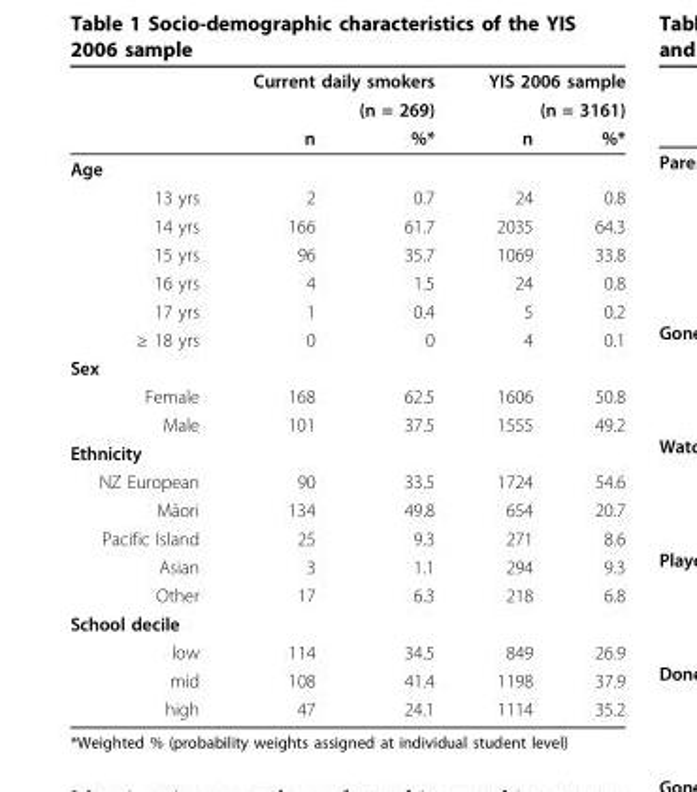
<table><thead><tr><td rowspan="3"></td><td rowspan="2" colspan="2">Current daily smokers (n = 269)</td><td rowspan="2" colspan="2">YIS 2006 sample (n = 3161)</td></tr><tr></tr><tr><td>n</td><td>%*</td><td>n</td><td>%*</td></tr></thead><tbody><tr><td colspan="5">Age</td></tr><tr><td>13 yrs</td><td>2</td><td>0.7</td><td>24</td><td>0.8</td></tr><tr><td>14 yrs</td><td>166</td><td>61.7</td><td>2035</td><td>64.3</td></tr><tr><td>15 yrs</td><td>96</td><td>35.7</td><td>1069</td><td>33.8</td></tr><tr><td>16 yrs</td><td>4</td><td>1.5</td><td>24</td><td>0.8</td></tr><tr><td>17 yrs</td><td>1</td><td>0.4</td><td>5</td><td>0.2</td></tr><tr><td>≥ 18 yrs</td><td>0</td><td>0</td><td>4</td><td>0.1</td></tr><tr><td colspan="5">Sex</td></tr><tr><td>Female</td><td>168</td><td>62.5</td><td>1606</td><td>50.8</td></tr><tr><td>Male</td><td>101</td><td>37.5</td><td>1555</td><td>49.2</td></tr><tr><td colspan="5">Ethnicity</td></tr><tr><td>NZ European</td><td>90</td><td>33.5</td><td>1724</td><td>54.6</td></tr><tr><td>Māori</td><td>134</td><td>49.8</td><td>654</td><td>20.7</td></tr><tr><td>Pacific Island</td><td>25</td><td>9.3</td><td>271</td><td>8.6</td></tr><tr><td>Asian</td><td>3</td><td>1.1</td><td>294</td><td>9.3</td></tr><tr><td>Other</td><td>17</td><td>6.3</td><td>218</td><td>6.8</td></tr><tr><td colspan="5">School decile</td></tr><tr><td>low</td><td>114</td><td>34.5</td><td>849</td><td>26.9</td></tr><tr><td>mid</td><td>108</td><td>41.4</td><td>1198</td><td>37.9</td></tr><tr><td>high</td><td>47</td><td>24.1</td><td>1114</td><td>35.2</td></tr></tbody></table>